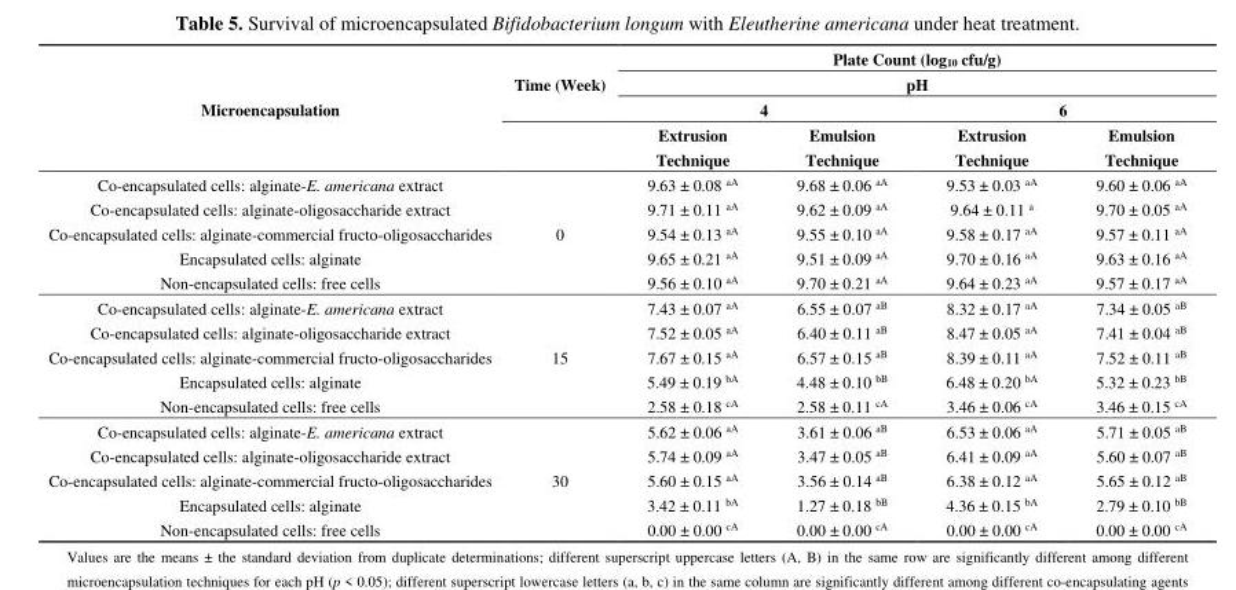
<table><thead><tr><td rowspan="4">Microencapsulation</td><td rowspan="4">Time (Week)</td><td rowspan="2" colspan="4">Plate Count (log<sub>10</sub> cfu/g) pH</td></tr><tr></tr><tr><td colspan="2">4</td><td colspan="2">6</td></tr><tr><td>Extrusion Technique</td><td>Emulsion Technique</td><td>Extrusion Technique</td><td>Emulsion Technique</td></tr></thead><tbody><tr><td>Co-encapsulated cells: alginate-E. americana extract</td><td rowspan="5">0</td><td>9.63 ± 0.08 <sup>aA</sup></td><td>9.68 ± 0.06 <sup>aA</sup></td><td>9.53 ± 0.03 <sup>aA</sup></td><td>9.60 ± 0.06 <sup>aA</sup></td></tr><tr><td>Co-encapsulated cells: alginate-oligosaccharide extract</td><td>9.71 ± 0.11 <sup>aA</sup></td><td>9.62 ± 0.09 <sup>aA</sup></td><td>9.64 ± 0.11 <sup>a</sup></td><td>9.70 ± 0.05 <sup>aA</sup></td></tr><tr><td>Co-encapsulated cells: alginate-commercial fructo-oligosaccharides</td><td>9.54 ± 0.13 <sup>aA</sup></td><td>9.55 ± 0.10 <sup>aA</sup></td><td>9.58 ± 0.17 <sup>aA</sup></td><td>9.57 ± 0.11 <sup>aA</sup></td></tr><tr><td>Encapsulated cells: alginate</td><td>9.65 ± 0.21 <sup>aA</sup></td><td>9.51 ± 0.09 <sup>aA</sup></td><td>9.70 ± 0.16 <sup>aA</sup></td><td>9.63 ± 0.16 <sup>aA</sup></td></tr><tr><td>Non-encapsulated cells: free cells</td><td>9.56 ± 0.10 <sup>aA</sup></td><td>9.70 ± 0.21 <sup>aA</sup></td><td>9.64 ± 0.23 <sup>aA</sup></td><td>9.57 ± 0.17 <sup>aA</sup></td></tr><tr><td>Co-encapsulated cells: alginate-E. americana extract</td><td rowspan="5">15</td><td>7.43 ± 0.07 <sup>aA</sup></td><td>6.55 ± 0.07 <sup>aB</sup></td><td>8.32 ± 0.17 <sup>aA</sup></td><td>7.34 ± 0.05 <sup>aB</sup></td></tr><tr><td>Co-encapsulated cells: alginate-oligosaccharide extract</td><td>7.52 ± 0.05 <sup>aA</sup></td><td>6.40 ± 0.11 <sup>aB</sup></td><td>8.47 ± 0.05 <sup>aA</sup></td><td>7.41 ± 0.04 <sup>aB</sup></td></tr><tr><td>Co-encapsulated cells: alginate-commercial fructo-oligosaccharides</td><td>7.67 ± 0.15 <sup>aA</sup></td><td>6.57 ± 0.15 <sup>aB</sup></td><td>8.39 ± 0.11 <sup>aA</sup></td><td>7.52 ± 0.11 <sup>aB</sup></td></tr><tr><td>Encapsulated cells: alginate</td><td>5.49 ± 0.19 <sup>bA</sup></td><td>4.48 ± 0.10 <sup>bB</sup></td><td>6.48 ± 0.20 <sup>bA</sup></td><td>5.32 ± 0.23 <sup>bB</sup></td></tr><tr><td>Non-encapsulated cells: free cells</td><td>2.58 ± 0.18 <sup>cA</sup></td><td>2.58 ± 0.11 <sup>cA</sup></td><td>3.46 ± 0.06 <sup>cA</sup></td><td>3.46 ± 0.15 <sup>cA</sup></td></tr><tr><td>Co-encapsulated cells: alginate-E. americana extract</td><td rowspan="5">30</td><td>5.62 ± 0.06 <sup>aA</sup></td><td>3.61 ± 0.06 <sup>aB</sup></td><td>6.53 ± 0.06 <sup>aA</sup></td><td>5.71 ± 0.05 <sup>aB</sup></td></tr><tr><td>Co-encapsulated cells: alginate-oligosaccharide extract</td><td>5.74 ± 0.09 <sup>aA</sup></td><td>3.47 ± 0.05 <sup>aB</sup></td><td>6.41 ± 0.09 <sup>aA</sup></td><td>5.60 ± 0.07 <sup>aB</sup></td></tr><tr><td>Co-encapsulated cells: alginate-commercial fructo-oligosaccharides</td><td>5.60 ± 0.15 <sup>aA</sup></td><td>3.56 ± 0.14 <sup>aB</sup></td><td>6.38 ± 0.12 <sup>aA</sup></td><td>5.65 ± 0.12 <sup>aB</sup></td></tr><tr><td>Encapsulated cells: alginate</td><td>3.42 ± 0.11 <sup>bA</sup></td><td>1.27 ± 0.18 <sup>bB</sup></td><td>4.36 ± 0.15 <sup>bA</sup></td><td>2.79 ± 0.10 <sup>bB</sup></td></tr><tr><td>Non-encapsulated cells: free cells</td><td>0.00 ± 0.00 <sup>cA</sup></td><td>0.00 ± 0.00 <sup>cA</sup></td><td>0.00 ± 0.00 <sup>cA</sup></td><td>0.00 ± 0.00 <sup>cA</sup></td></tr></tbody></table>